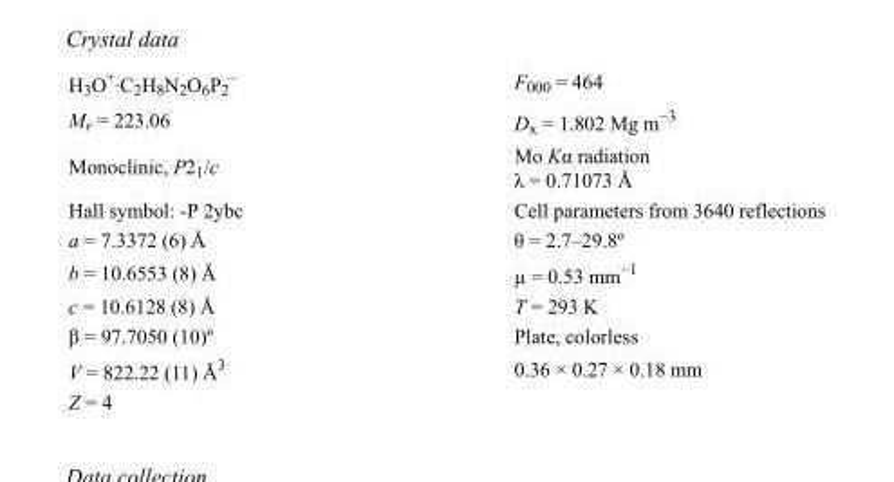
<table><tbody><tr><td>H<sub>3</sub>O<sup>+</sup>·C<sub>2</sub>H<sub>8</sub>N<sub>2</sub>O<sub>6</sub>P<sub>2</sub> <sup>–</sup></td><td>F000 = 464</td></tr><tr><td>M<sub>r</sub> = 223.06</td><td>D<sub>x</sub> = 1.802 Mg m<sup>−3</sup></td></tr><tr><td>Monoclinic, P2<sub>1</sub>/c</td><td>Mo Kα radiation λ = 0.71073 Å</td></tr><tr><td>Hall symbol: -P 2ybc</td><td>Cell parameters from 3640 reflections</td></tr><tr><td>a = 7.3372 (6) Å</td><td>θ = 2.7–29.8º</td></tr><tr><td>b = 10.6553 (8) Å</td><td>µ = 0.53 mm<sup>−1</sup></td></tr><tr><td>c = 10.6128 (8) Å</td><td>T = 293 K</td></tr><tr><td>β = 97.7050 (10)º</td><td>Plate, colorless</td></tr><tr><td>V = 822.22 (11) Å<sup>3</sup></td><td>0.36 × 0.27 × 0.18 mm</td></tr><tr><td>Z = 4</td><td></td></tr></tbody></table>